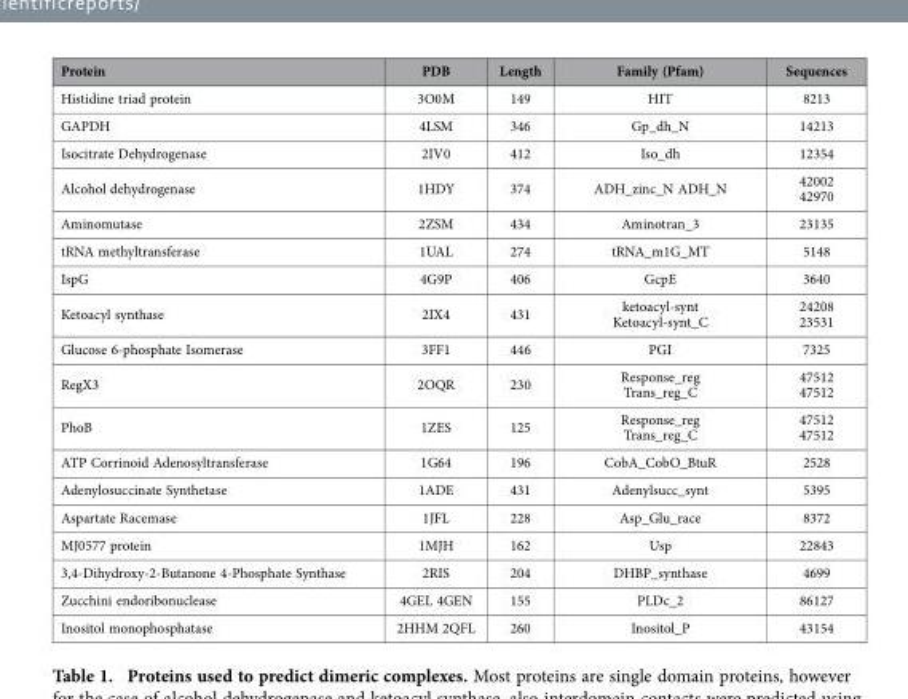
<table><thead><tr><td>Protein</td><td>PDB</td><td>Length</td><td>Family (Pfam)</td><td>Sequences</td></tr></thead><tbody><tr><td>Histidine triad protein</td><td>3O0M</td><td>149</td><td>HIT</td><td>8213</td></tr><tr><td>GAPDH</td><td>4LSM</td><td>346</td><td>Gp_dh_N</td><td>14213</td></tr><tr><td>Isocitrate Dehydrogenase</td><td>2IV0</td><td>412</td><td>Iso_dh</td><td>12354</td></tr><tr><td>Alcohol dehydrogenase</td><td>1HDY</td><td>374</td><td>ADH_zinc_N ADH_N</td><td>42002 42970</td></tr><tr><td>Aminomutase</td><td>2ZSM</td><td>434</td><td>Aminotran_3</td><td>23135</td></tr><tr><td>tRNA methyltransferase</td><td>1UAL</td><td>274</td><td>tRNA_m1G_MT</td><td>5148</td></tr><tr><td>IspG</td><td>4G9P</td><td>406</td><td>GcpE</td><td>3640</td></tr><tr><td>Ketoacyl synthase</td><td>2IX4</td><td>431</td><td>ketoacyl-synt Ketoacyl-synt_C</td><td>24208 23531</td></tr><tr><td>Glucose 6-phosphate Isomerase</td><td>3FF1</td><td>446</td><td>PGI</td><td>7325</td></tr><tr><td>RegX3</td><td>2OQR</td><td>230</td><td>Response_reg Trans_reg_C</td><td>47512 47512</td></tr><tr><td>PhoB</td><td>1ZES</td><td>125</td><td>Response_reg Trans_reg_C</td><td>47512 47512</td></tr><tr><td>ATP Corrinoid Adenosyltransferase</td><td>1G64</td><td>196</td><td>CobA_CobO_BtuR</td><td>2528</td></tr><tr><td>Adenylosuccinate Synthetase</td><td>1ADE</td><td>431</td><td>Adenylsucc_synt</td><td>5395</td></tr><tr><td>Aspartate Racemase</td><td>1JFL</td><td>228</td><td>Asp_Glu_race</td><td>8372</td></tr><tr><td>MJ0577 protein</td><td>1MJH</td><td>162</td><td>Usp</td><td>22843</td></tr><tr><td>3,4-Dihydroxy-2-Butanone 4-Phosphate Synthase</td><td>2RIS</td><td>204</td><td>DHBP_synthase</td><td>4699</td></tr><tr><td>Zucchini endoribonuclease</td><td>4GEL 4GEN</td><td>155</td><td>PLDc_2</td><td>86127</td></tr><tr><td>Inositol monophosphatase</td><td>2HHM 2QFL</td><td>260</td><td>Inositol_P</td><td>43154</td></tr></tbody></table>